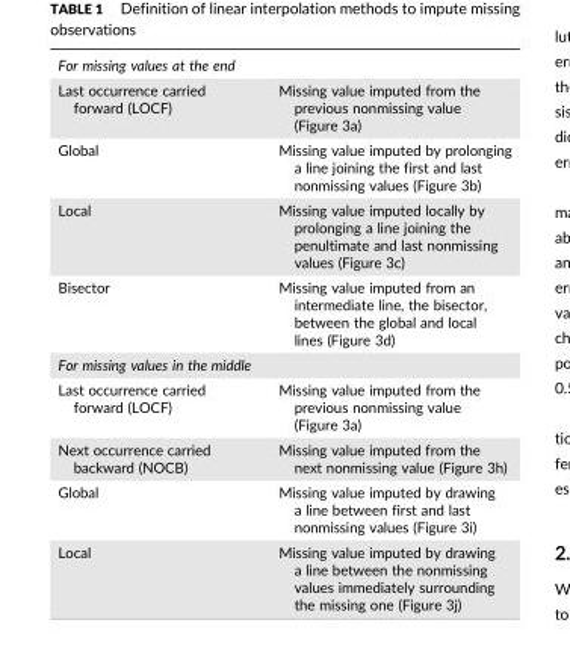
<table><tbody><tr><td colspan="2">For missing values at the end</td></tr><tr><td>Last occurrence carried forward (LOCF)</td><td>Missing value imputed from the previous nonmissing value (Figure 3a)</td></tr><tr><td>Global</td><td>Missing value imputed by prolonging a line joining the first and last nonmissing values (Figure 3b)</td></tr><tr><td>Local</td><td>Missing value imputed locally by prolonging a line joining the penultimate and last nonmissing values (Figure 3c)</td></tr><tr><td>Bisector</td><td>Missing value imputed from an intermediate line, the bisector, between the global and local lines (Figure 3d)</td></tr><tr><td colspan="2">For missing values in the middle</td></tr><tr><td>Last occurrence carried forward (LOCF)</td><td>Missing value imputed from the previous nonmissing value (Figure 3a)</td></tr><tr><td>Next occurrence carried backward (NOCB)</td><td>Missing value imputed from the next nonmissing value (Figure 3h)</td></tr><tr><td>Global</td><td>Missing value imputed by drawing a line between first and last nonmissing values (Figure 3i)</td></tr><tr><td>Local</td><td>Missing value imputed by drawing a line between the nonmissing values immediately surrounding the missing one (Figure 3j)</td></tr></tbody></table>